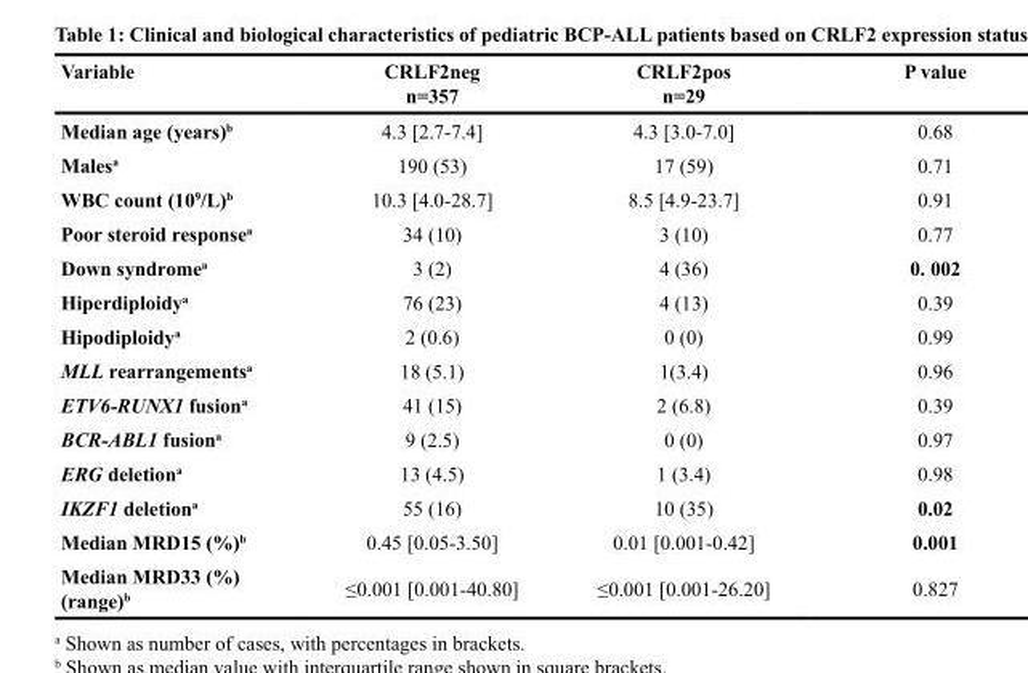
<table><thead><tr><td>Variable</td><td>CRLF2neg n=357</td><td>CRLF2pos n=29</td><td>P value</td></tr></thead><tbody><tr><td>Median age (years)<sup>b</sup></td><td>4.3 [2.7-7.4]</td><td>4.3 [3.0-7.0]</td><td>0.68</td></tr><tr><td>Males<sup>a</sup></td><td>190 (53)</td><td>17 (59)</td><td>0.71</td></tr><tr><td>WBC count (10<sup>9</sup>/L)<sup>b</sup></td><td>10.3 [4.0-28.7]</td><td>8.5 [4.9-23.7]</td><td>0.91</td></tr><tr><td>Poor steroid response<sup>a</sup></td><td>34 (10)</td><td>3 (10)</td><td>0.77</td></tr><tr><td>Down syndrome<sup>a</sup></td><td>3 (2)</td><td>4 (36)</td><td>0. 002</td></tr><tr><td>Hiperdiploidy<sup>a</sup></td><td>76 (23)</td><td>4 (13)</td><td>0.39</td></tr><tr><td>Hipodiploidy<sup>a</sup></td><td>2 (0.6)</td><td>0 (0)</td><td>0.99</td></tr><tr><td>MLL rearrangements<sup>a</sup></td><td>18 (5.1)</td><td>1(3.4)</td><td>0.96</td></tr><tr><td>ETV6-RUNX1 fusion<sup>a</sup></td><td>41 (15)</td><td>2 (6.8)</td><td>0.39</td></tr><tr><td>BCR-ABL1 fusion<sup>a</sup></td><td>9 (2.5)</td><td>0 (0)</td><td>0.97</td></tr><tr><td>ERG deletion<sup>a</sup></td><td>13 (4.5)</td><td>1 (3.4)</td><td>0.98</td></tr><tr><td>IKZF1 deletion<sup>a</sup></td><td>55 (16)</td><td>10 (35)</td><td>0.02</td></tr><tr><td>Median MRD15 (%)<sup>b</sup></td><td>0.45 [0.05-3.50]</td><td>0.01 [0.001-0.42]</td><td>0.001</td></tr><tr><td>Median MRD33 (%) (range)<sup>b</sup></td><td>≤0.001 [0.001-40.80]</td><td>≤0.001 [0.001-26.20]</td><td>0.827</td></tr></tbody></table>